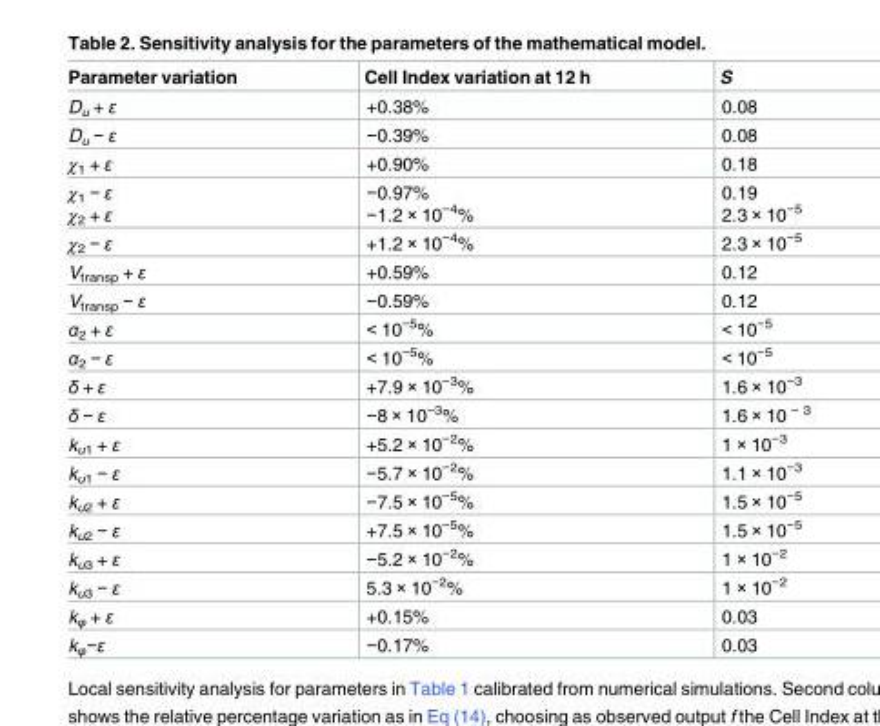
<table><thead><tr><td>Parameter variation</td><td>Cell Index variation at 12 h</td><td>S</td></tr></thead><tbody><tr><td>D<sub>u</sub> + ε</td><td>+0.38%</td><td>0.08</td></tr><tr><td>D<sub>u</sub> − ε</td><td>−0.39%</td><td>0.08</td></tr><tr><td>χ<sub>1</sub> + ε</td><td>+0.90%</td><td>0.18</td></tr><tr><td>χ<sub>1</sub> − ε χ<sub>2</sub> + ε</td><td>−0.97% −1.2 × 10<sup>−4</sup>%</td><td>0.19 2.3 × 10<sup>−5</sup></td></tr><tr><td>χ<sub>2</sub> − ε</td><td>+1.2 × 10<sup>−4</sup>%</td><td>2.3 × 10<sup>−5</sup></td></tr><tr><td>V<sub>transp</sub> + ε</td><td>+0.59%</td><td>0.12</td></tr><tr><td>V<sub>transp</sub> − ε</td><td>−0.59%</td><td>0.12</td></tr><tr><td>α<sub>2</sub> + ε</td><td>&lt; 10<sup>−5</sup>%</td><td>&lt; 10<sup>−5</sup></td></tr><tr><td>α<sub>2</sub> − ε</td><td>&lt; 10<sup>−5</sup>%</td><td>&lt; 10<sup>−5</sup></td></tr><tr><td>δ + ε</td><td>+7.9 × 10<sup>−3</sup>%</td><td>1.6 × 10<sup>−3</sup></td></tr><tr><td>δ − ε</td><td>−8 × 10<sup>−3</sup>%</td><td>1.6 × 10 <sup>− 3</sup></td></tr><tr><td>k<sub>u1</sub> + ε</td><td>+5.2 × 10<sup>−2</sup>%</td><td>1 × 10<sup>−3</sup></td></tr><tr><td>k<sub>u1</sub> − ε</td><td>−5.7 × 10<sup>−2</sup>%</td><td>1.1 × 10<sup>−3</sup></td></tr><tr><td>k<sub>u2</sub> + ε</td><td>−7.5 × 10<sup>−5</sup>%</td><td>1.5 × 10<sup>−5</sup></td></tr><tr><td>k<sub>u2</sub> − ε</td><td>+7.5 × 10<sup>−5</sup>%</td><td>1.5 × 10<sup>−5</sup></td></tr><tr><td>k<sub>u3</sub> + ε</td><td>−5.2 × 10<sup>−2</sup>%</td><td>1 × 10<sup>−2</sup></td></tr><tr><td>k<sub>u3</sub> − ε</td><td>5.3 × 10<sup>−2</sup>%</td><td>1 × 10<sup>−2</sup></td></tr><tr><td>k<sub>φ</sub> + ε</td><td>+0.15%</td><td>0.03</td></tr><tr><td>k<sub>φ</sub>−ε</td><td>−0.17%</td><td>0.03</td></tr></tbody></table>